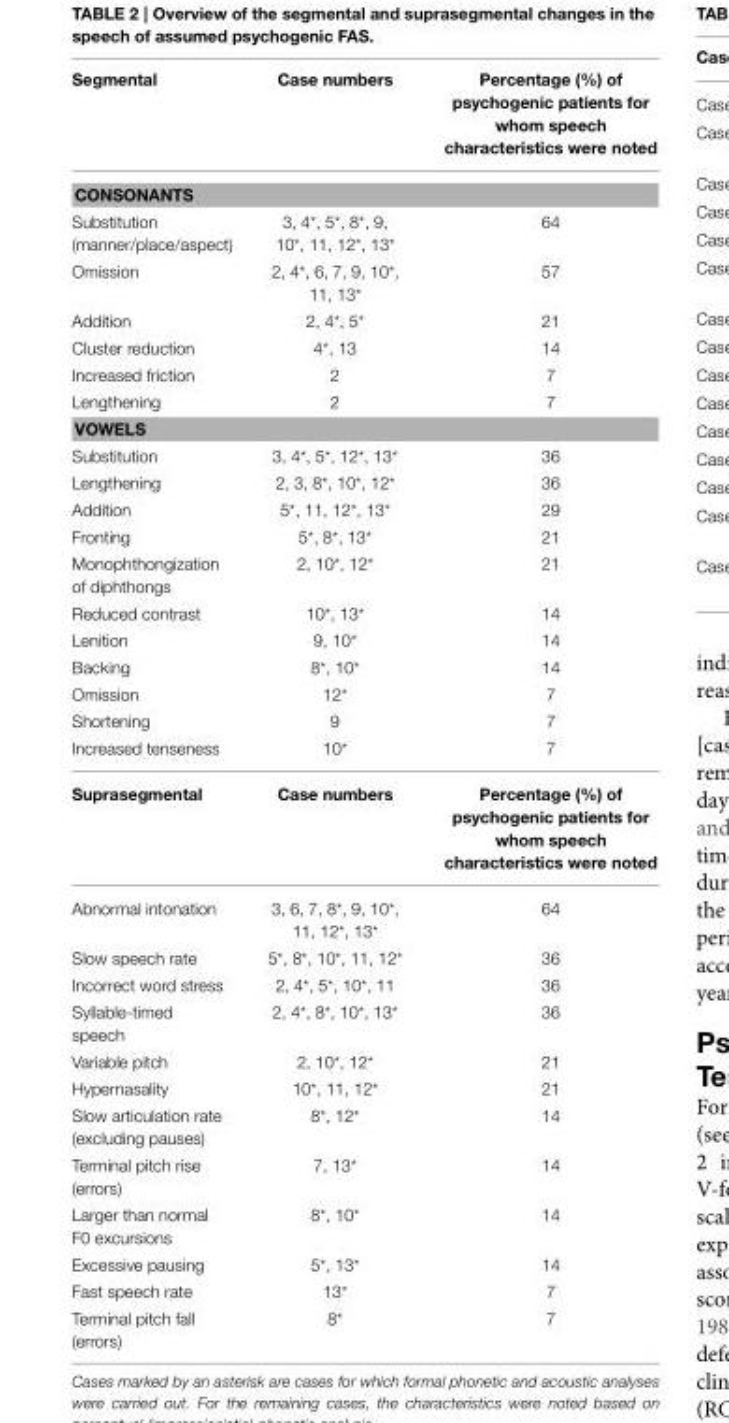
<table><thead><tr><td>Segmental</td><td>Case numbers</td><td>Percentage (%) of psychogenic patients for whom speech characteristics were noted</td></tr></thead><tbody><tr><td colspan="3">CONSONANTS</td></tr><tr><td>Substitution (manner/place/aspect)</td><td>3, 4*, 5*, 8*, 9, 10*, 11, 12*, 13*</td><td>64</td></tr><tr><td>Omission</td><td>2, 4*, 6, 7, 9, 10*, 11, 13*</td><td>57</td></tr><tr><td>Addition</td><td>2, 4*, 5*</td><td>21</td></tr><tr><td>Cluster reduction</td><td>4*, 13</td><td>14</td></tr><tr><td>Increased friction</td><td>2</td><td>7</td></tr><tr><td>Lengthening</td><td>2</td><td>7</td></tr><tr><td colspan="3">VOWELS</td></tr><tr><td>Substitution</td><td>3, 4*, 5*, 12*, 13*</td><td>36</td></tr><tr><td>Lengthening</td><td>2, 3, 8*, 10*, 12*</td><td>36</td></tr><tr><td>Addition</td><td>5*, 11, 12*, 13*</td><td>29</td></tr><tr><td>Fronting</td><td>5*, 8*, 13*</td><td>21</td></tr><tr><td>Monophthongization of diphthongs</td><td>2, 10*, 12*</td><td>21</td></tr><tr><td>Reduced contrast</td><td>10*, 13*</td><td>14</td></tr><tr><td>Lenition</td><td>9, 10*</td><td>14</td></tr><tr><td>Backing</td><td>8*, 10*</td><td>14</td></tr><tr><td>Omission</td><td>12*</td><td>7</td></tr><tr><td>Shortening</td><td>9</td><td>7</td></tr><tr><td>Increased tenseness</td><td>10*</td><td>7</td></tr><tr><td>Suprasegmental</td><td>Case numbers</td><td>Percentage (%) of psychogenic patients for whom speech characteristics were noted</td></tr><tr><td>Abnormal intonation</td><td>3, 6, 7, 8*, 9, 10*, 11, 12*, 13*</td><td>64</td></tr><tr><td>Slow speech rate</td><td>5*, 8*, 10*, 11, 12*</td><td>36</td></tr><tr><td>Incorrect word stress</td><td>2, 4*, 5*, 10*, 11</td><td>36</td></tr><tr><td>Syllable-timed speech</td><td>2, 4*, 8*, 10*, 13*</td><td>36</td></tr><tr><td>Variable pitch</td><td>2, 10*, 12*</td><td>21</td></tr><tr><td>Hypernasality</td><td>10*, 11, 12*</td><td>21</td></tr><tr><td>Slow articulation rate (excluding pauses)</td><td>8*, 12*</td><td>14</td></tr><tr><td>Terminal pitch rise (errors)</td><td>7, 13*</td><td>14</td></tr><tr><td>Larger than normal F0 excursions</td><td>8*, 10*</td><td>14</td></tr><tr><td>Excessive pausing</td><td>5*, 13*</td><td>14</td></tr><tr><td>Fast speech rate</td><td>13*</td><td>7</td></tr><tr><td>Terminal pitch fall (errors)</td><td>8*</td><td>7</td></tr></tbody></table>